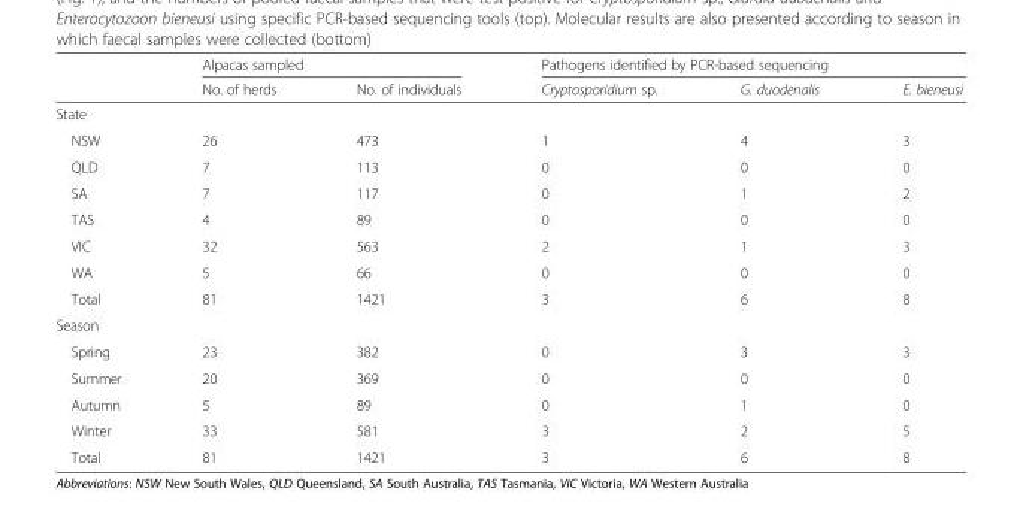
<table><thead><tr><td rowspan="2"></td><td colspan="2">Alpacas sampled</td><td colspan="3">Pathogens identified by PCR-based sequencing</td></tr><tr><td>No. of herds</td><td>No. of individuals</td><td>Cryptosporidium sp.</td><td>G. duodenalis</td><td>E. bieneusi</td></tr></thead><tbody><tr><td colspan="6">State</td></tr><tr><td>NSW</td><td>26</td><td>473</td><td>1</td><td>4</td><td>3</td></tr><tr><td>QLD</td><td>7</td><td>113</td><td>0</td><td>0</td><td>0</td></tr><tr><td>SA</td><td>7</td><td>117</td><td>0</td><td>1</td><td>2</td></tr><tr><td>TAS</td><td>4</td><td>89</td><td>0</td><td>0</td><td>0</td></tr><tr><td>VIC</td><td>32</td><td>563</td><td>2</td><td>1</td><td>3</td></tr><tr><td>WA</td><td>5</td><td>66</td><td>0</td><td>0</td><td>0</td></tr><tr><td>Total</td><td>81</td><td>1421</td><td>3</td><td>6</td><td>8</td></tr><tr><td colspan="6">Season</td></tr><tr><td>Spring</td><td>23</td><td>382</td><td>0</td><td>3</td><td>3</td></tr><tr><td>Summer</td><td>20</td><td>369</td><td>0</td><td>0</td><td>0</td></tr><tr><td>Autumn</td><td>5</td><td>89</td><td>0</td><td>1</td><td>0</td></tr><tr><td>Winter</td><td>33</td><td>581</td><td>3</td><td>2</td><td>5</td></tr><tr><td>Total</td><td>81</td><td>1421</td><td>3</td><td>6</td><td>8</td></tr></tbody></table>